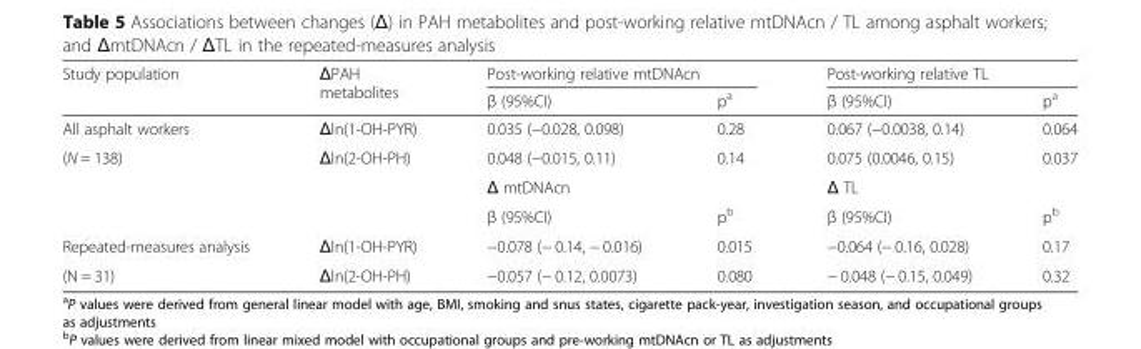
<table><thead><tr><td rowspan="2">Study population</td><td rowspan="2">ΔPAH metabolites</td><td colspan="2">Post-working relative mtDNAcn</td><td colspan="2">Post-working relative TL</td></tr><tr><td>β (95%CI)</td><td>p<sup>a</sup></td><td>β (95%CI)</td><td>p<sup>a</sup></td></tr></thead><tbody><tr><td>All asphalt workers</td><td>Δln(1-OH-PYR)</td><td>0.035 (−0.028, 0.098)</td><td>0.28</td><td>0.067 (−0.0038, 0.14)</td><td>0.064</td></tr><tr><td rowspan="3">(N = 138)</td><td>Δln(2-OH-PH)</td><td>0.048 (−0.015, 0.11)</td><td>0.14</td><td>0.075 (0.0046, 0.15)</td><td>0.037</td></tr><tr><td></td><td colspan="2">Δ mtDNAcn</td><td colspan="2">Δ TL</td></tr><tr><td></td><td>β (95%CI)</td><td>p<sup>b</sup></td><td>β (95%CI)</td><td>p<sup>b</sup></td></tr><tr><td>Repeated-measures analysis</td><td>Δln(1-OH-PYR)</td><td>−0.078 (− 0.14, − 0.016)</td><td>0.015</td><td>−0.064 (− 0.16, 0.028)</td><td>0.17</td></tr><tr><td>(N = 31)</td><td>Δln(2-OH-PH)</td><td>−0.057 (− 0.12, 0.0073)</td><td>0.080</td><td>− 0.048 (− 0.15, 0.049)</td><td>0.32</td></tr></tbody></table>